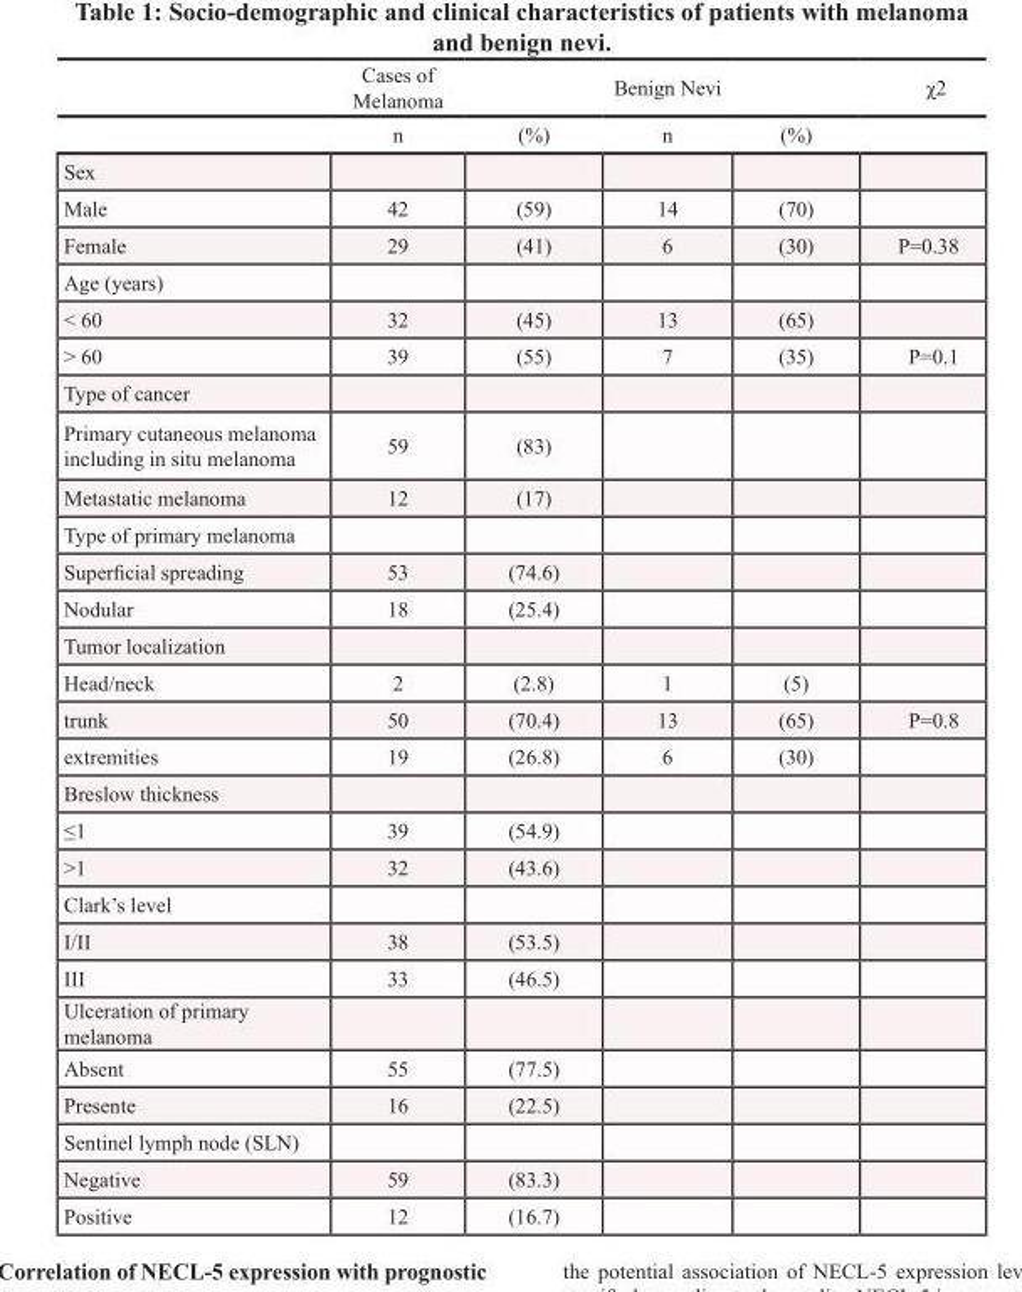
<table><thead><tr><td rowspan="2"></td><td colspan="2">Cases of Melanoma</td><td colspan="2">Benign Nevi</td><td rowspan="2">χ<sup>2</sup></td></tr><tr><td>n</td><td>(%)</td><td>n</td><td>(%)</td></tr></thead><tbody><tr><td colspan="6">Sex</td></tr><tr><td>Male</td><td>42</td><td>(59)</td><td>14</td><td>(70)</td><td></td></tr><tr><td>Female</td><td>29</td><td>(41)</td><td>6</td><td>(30)</td><td>P=0.38</td></tr><tr><td colspan="6">Age (years)</td></tr><tr><td>&lt; 60</td><td>32</td><td>(45)</td><td>13</td><td>(65)</td><td></td></tr><tr><td>&gt; 60</td><td>39</td><td>(55)</td><td>7</td><td>(35)</td><td>P=0.1</td></tr><tr><td colspan="6">Type of cancer</td></tr><tr><td>Primary cutaneous melanoma including in situ melanoma</td><td>59</td><td>(83)</td><td></td><td></td><td></td></tr><tr><td>Metastatic melanoma</td><td>12</td><td>(17)</td><td></td><td></td><td></td></tr><tr><td colspan="6">Type of primary melanoma</td></tr><tr><td>Superficial spreading</td><td>53</td><td>(74.6)</td><td></td><td></td><td></td></tr><tr><td>Nodular</td><td>18</td><td>(25.4)</td><td></td><td></td><td></td></tr><tr><td colspan="6">Tumor localization</td></tr><tr><td>Head/neck</td><td>2</td><td>(2.8)</td><td>1</td><td>(5)</td><td></td></tr><tr><td>trunk</td><td>50</td><td>(70.4)</td><td>13</td><td>(65)</td><td>P=0.8</td></tr><tr><td>extremities</td><td>19</td><td>(26.8)</td><td>6</td><td>(30)</td><td></td></tr><tr><td colspan="6">Breslow thickness</td></tr><tr><td>≤1</td><td>39</td><td>(54.9)</td><td></td><td></td><td></td></tr><tr><td>&gt;1</td><td>32</td><td>(43.6)</td><td></td><td></td><td></td></tr><tr><td colspan="6">Clark’s level</td></tr><tr><td>I/II</td><td>38</td><td>(53.5)</td><td></td><td></td><td></td></tr><tr><td>III</td><td>33</td><td>(46.5)</td><td></td><td></td><td></td></tr><tr><td colspan="6">Ulceration of primary melanoma</td></tr><tr><td>Absent</td><td>55</td><td>(77.5)</td><td></td><td></td><td></td></tr><tr><td>Presente</td><td>16</td><td>(22.5)</td><td></td><td></td><td></td></tr><tr><td colspan="6">Sentinel lymph node (SLN)</td></tr><tr><td>Negative</td><td>59</td><td>(83.3)</td><td></td><td></td><td></td></tr><tr><td>Positive</td><td>12</td><td>(16.7)</td><td></td><td></td><td></td></tr></tbody></table>